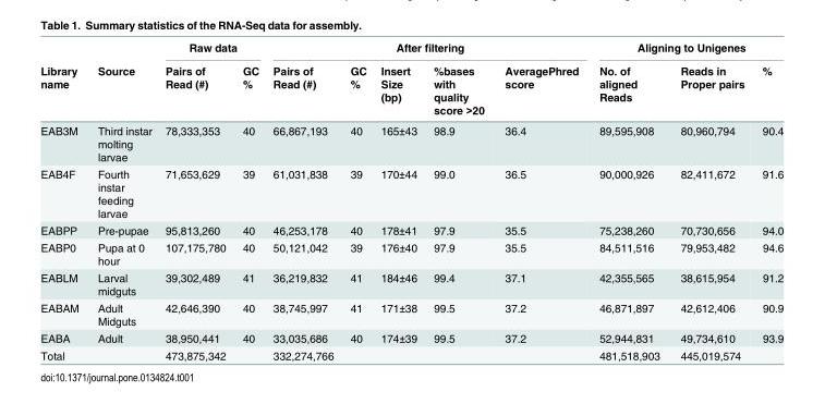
<table><thead><tr><td rowspan="2">Library name</td><td rowspan="2">Source</td><td colspan="2">Raw data</td><td colspan="5">After filtering</td><td colspan="3">Aligning to Unigenes</td></tr><tr><td>Pairs of Read (#)</td><td>GC %</td><td>Pairs of Read (#)</td><td>GC %</td><td>Insert Size (bp)</td><td>%bases with quality score &gt;20</td><td>AveragePhred score</td><td>No. of aligned Reads</td><td>Reads in Proper pairs</td><td>%</td></tr></thead><tbody><tr><td>EAB3M</td><td>Third instar molting larvae</td><td>78,333,353</td><td>40</td><td>66,867,193</td><td>40</td><td>165±43</td><td>98.9</td><td>36.4</td><td>89,595,908</td><td>80,960,794</td><td>90.4</td></tr><tr><td>EAB4F</td><td>Fourth instar feeding larvae</td><td>71,653,629</td><td>39</td><td>61,031,838</td><td>39</td><td>170±44</td><td>99.0</td><td>36.5</td><td>90,000,926</td><td>82,411,672</td><td>91.6</td></tr><tr><td>EABPP</td><td>Pre-pupae</td><td>95,813,260</td><td>40</td><td>46,253,178</td><td>40</td><td>178±41</td><td>97.9</td><td>35.5</td><td>75,238,260</td><td>70,730,656</td><td>94.0</td></tr><tr><td>EABP0</td><td>Pupa at 0 hour</td><td>107,175,780</td><td>40</td><td>50,121,042</td><td>39</td><td>176±40</td><td>97.9</td><td>35.5</td><td>84,511,516</td><td>79,953,482</td><td>94.6</td></tr><tr><td>EABLM</td><td>Larval midguts</td><td>39,302,489</td><td>41</td><td>36,219,832</td><td>41</td><td>184±46</td><td>99.4</td><td>37.1</td><td>42,355,565</td><td>38,615,954</td><td>91.2</td></tr><tr><td>EABAM</td><td>Adult Midguts</td><td>42,646,390</td><td>40</td><td>38,745,997</td><td>41</td><td>171±38</td><td>99.5</td><td>37.2</td><td>46,871,897</td><td>42,612,406</td><td>90.9</td></tr><tr><td>EABA</td><td>Adult</td><td>38,950,441</td><td>40</td><td>33,035,686</td><td>40</td><td>174±39</td><td>99.5</td><td>37.2</td><td>52,944,831</td><td>49,734,610</td><td>93.9</td></tr><tr><td>Total</td><td></td><td>473,875,342</td><td></td><td>332,274,766</td><td></td><td></td><td></td><td></td><td>481,518,903</td><td>445,019,574</td><td></td></tr></tbody></table>